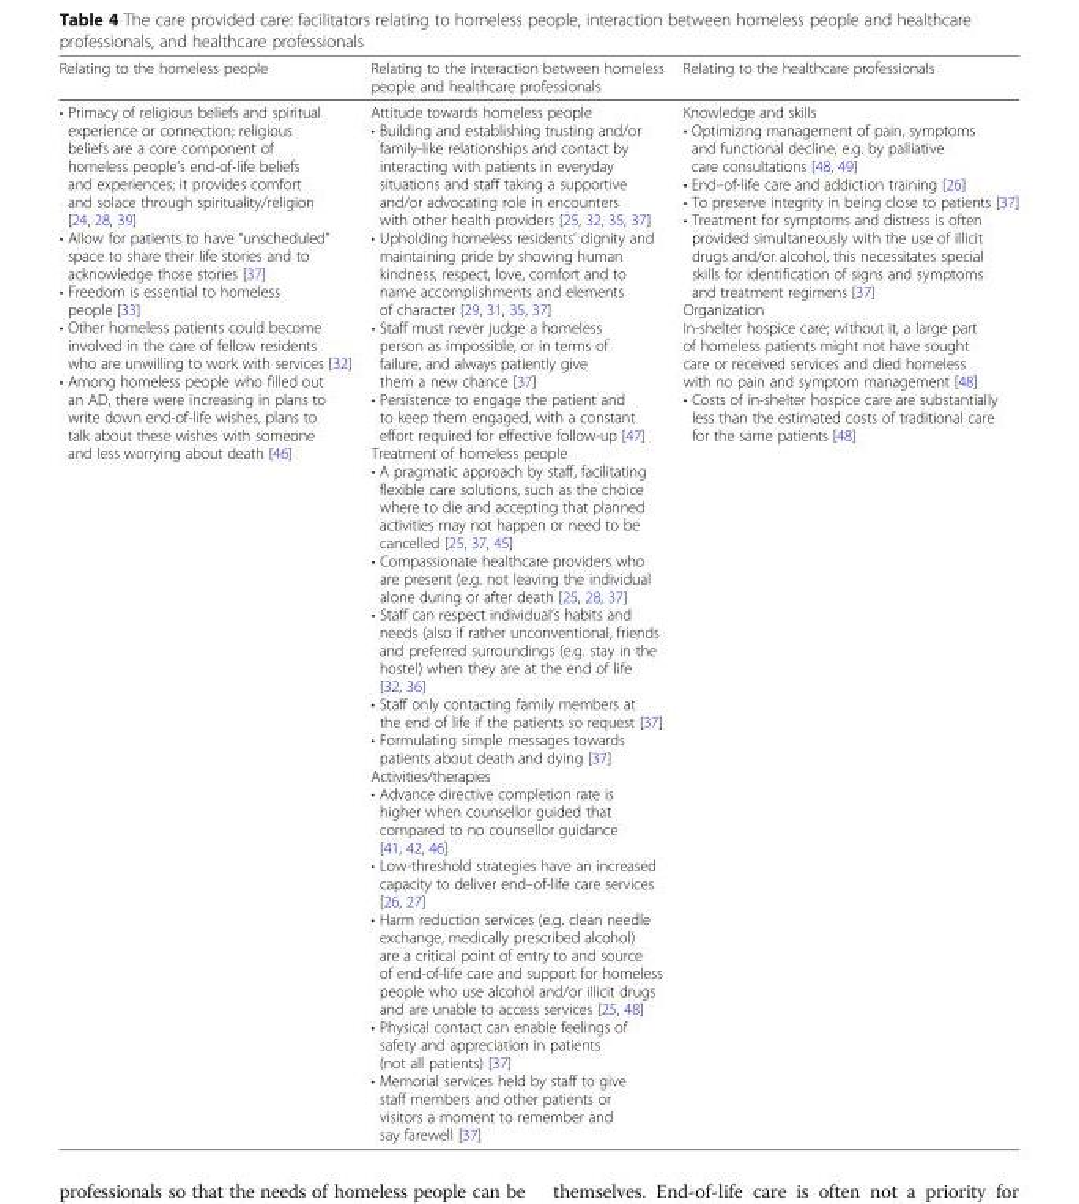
<table><thead><tr><td>Relating to the homeless people</td><td>Relating to the interaction between homeless people and healthcare professionals</td><td>Relating to the healthcare professionals</td></tr></thead><tbody><tr><td>• Primacy of religious beliefs and spiritual experience or connection; religious beliefs are a core component of homeless people’s end-of-life beliefs and experiences; it provides comfort and solace through spirituality/religion [24, 28, 39] • Allow for patients to have “unscheduled” space to share their life stories and to acknowledge those stories [37] • Freedom is essential to homeless people [33] • Other homeless patients could become involved in the care of fellow residents who are unwilling to work with services [32] • Among homeless people who filled out an AD, there were increasing in plans to write down end-of-life wishes, plans to talk about these wishes with someone and less worrying about death [46]</td><td>Attitude towards homeless people • Building and establishing trusting and/or family-like relationships and contact by interacting with patients in everyday situations and staff taking a supportive and/or advocating role in encounters with other health providers [25, 32, 35, 37] • Upholding homeless residents’ dignity and maintaining pride by showing human kindness, respect, love, comfort and to name accomplishments and elements of character [29, 31, 35, 37] • Staff must never judge a homeless person as impossible, or in terms of failure, and always patiently give them a new chance [37] • Persistence to engage the patient and to keep them engaged, with a constant effort required for effective follow-up [47] Treatment of homeless people • A pragmatic approach by staff, facilitating flexible care solutions, such as the choice where to die and accepting that planned activities may not happen or need to be cancelled [25, 37, 45] • Compassionate healthcare providers who are present (e.g. not leaving the individual alone during or after death [25, 28, 37] • Staff can respect individual’s habits and needs (also if rather unconventional, friends and preferred surroundings (e.g. stay in the hostel) when they are at the end of life [32, 36] • Staff only contacting family members at the end of life if the patients so request [37] • Formulating simple messages towards patients about death and dying [37] Activities/therapies • Advance directive completion rate is higher when counsellor guided that compared to no counsellor guidance [41, 42, 46] • Low-threshold strategies have an increased capacity to deliver end–of-life care services [26, 27] • Harm reduction services (e.g. clean needle exchange, medically prescribed alcohol) are a critical point of entry to and source of end-of-life care and support for homeless people who use alcohol and/or illicit drugs and are unable to access services [25, 48] • Physical contact can enable feelings of safety and appreciation in patients (not all patients) [37] • Memorial services held by staff to give staff members and other patients or visitors a moment to remember and say farewell [37]</td><td>Knowledge and skills • Optimizing management of pain, symptoms and functional decline, e.g. by palliative care consultations [48, 49] • End–of-life care and addiction training [26] • To preserve integrity in being close to patients [37] • Treatment for symptoms and distress is often provided simultaneously with the use of illicit drugs and/or alcohol, this necessitates special skills for identification of signs and symptoms and treatment regimens [37] Organization In-shelter hospice care; without it, a large part of homeless patients might not have sought care or received services and died homeless with no pain and symptom management [48] • Costs of in-shelter hospice care are substantially less than the estimated costs of traditional care for the same patients [48]</td></tr></tbody></table>